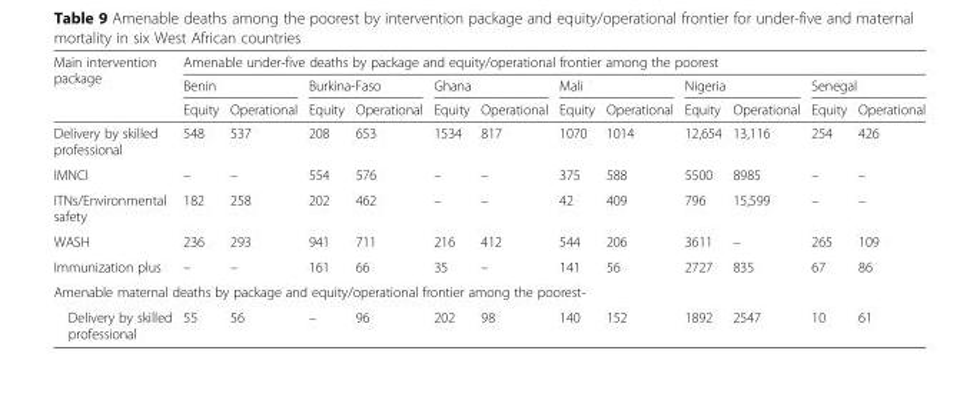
<table><thead><tr><td rowspan="3">Main intervention package</td><td colspan="12">Amenable under-five deaths by package and equity/operational frontier among the poorest</td></tr><tr><td colspan="2">Benin</td><td colspan="2">Burkina-Faso</td><td colspan="2">Ghana</td><td colspan="2">Mali</td><td colspan="2">Nigeria</td><td colspan="2">Senegal</td></tr><tr><td>Equity</td><td>Operational</td><td>Equity</td><td>Operational</td><td>Equity</td><td>Operational</td><td>Equity</td><td>Operational</td><td>Equity</td><td>Operational</td><td>Equity</td><td>Operational</td></tr></thead><tbody><tr><td>Delivery by skilled professional</td><td>548</td><td>537</td><td>208</td><td>653</td><td>1534</td><td>817</td><td>1070</td><td>1014</td><td>12,654</td><td>13,116</td><td>254</td><td>426</td></tr><tr><td>IMNCI</td><td>–</td><td>–</td><td>554</td><td>576</td><td>–</td><td>–</td><td>375</td><td>588</td><td>5500</td><td>8985</td><td>–</td><td>–</td></tr><tr><td>ITNs/Environmental safety</td><td>182</td><td>258</td><td>202</td><td>462</td><td>–</td><td>–</td><td>42</td><td>409</td><td>796</td><td>15,599</td><td>–</td><td>–</td></tr><tr><td>WASH</td><td>236</td><td>293</td><td>941</td><td>711</td><td>216</td><td>412</td><td>544</td><td>206</td><td>3611</td><td>–</td><td>265</td><td>109</td></tr><tr><td>Immunization plus</td><td>–</td><td>–</td><td>161</td><td>66</td><td>35</td><td>–</td><td>141</td><td>56</td><td>2727</td><td>835</td><td>67</td><td>86</td></tr><tr><td colspan="13">Amenable maternal deaths by package and equity/operational frontier among the poorest-</td></tr><tr><td>Delivery by skilled professional</td><td>55</td><td>56</td><td>–</td><td>96</td><td>202</td><td>98</td><td>140</td><td>152</td><td>1892</td><td>2547</td><td>10</td><td>61</td></tr></tbody></table>